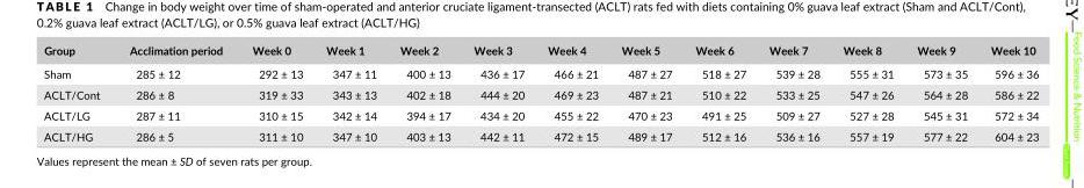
<table><thead><tr><td>Group</td><td>Acclimation period</td><td>Week 0</td><td>Week 1</td><td>Week 2</td><td>Week 3</td><td>Week 4</td><td>Week 5</td><td>Week 6</td><td>Week 7</td><td>Week 8</td><td>Week 9</td><td>Week 10</td></tr></thead><tbody><tr><td>Sham</td><td>285 ± 12</td><td>292 ± 13</td><td>347 ± 11</td><td>400 ± 13</td><td>436 ± 17</td><td>466 ± 21</td><td>487 ± 27</td><td>518 ± 27</td><td>539 ± 28</td><td>555 ± 31</td><td>573 ± 35</td><td>596 ± 36</td></tr><tr><td>ACLT/Cont</td><td>286 ± 8</td><td>319 ± 33</td><td>343 ± 13</td><td>402 ± 18</td><td>444 ± 20</td><td>469 ± 23</td><td>487 ± 21</td><td>510 ± 22</td><td>533 ± 25</td><td>547 ± 26</td><td>564 ± 28</td><td>586 ± 22</td></tr><tr><td>ACLT/LG</td><td>287 ± 11</td><td>310 ± 15</td><td>342 ± 14</td><td>394 ± 17</td><td>434 ± 20</td><td>455 ± 22</td><td>470 ± 23</td><td>491 ± 25</td><td>509 ± 27</td><td>527 ± 28</td><td>545 ± 31</td><td>572 ± 34</td></tr><tr><td>ACLT/HG</td><td>286 ± 5</td><td>311 ± 10</td><td>347 ± 10</td><td>403 ± 13</td><td>442 ± 11</td><td>472 ± 15</td><td>489 ± 17</td><td>512 ± 16</td><td>536 ± 16</td><td>557 ± 19</td><td>577 ± 22</td><td>604 ± 23</td></tr></tbody></table>